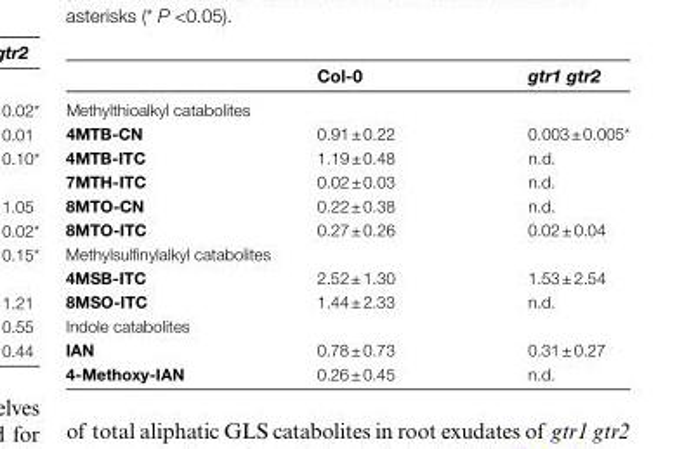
<table><thead><tr><td></td><td>Col-0</td><td>gtr1 gtr2</td></tr></thead><tbody><tr><td colspan="3">Methylthioalkyl catabolites</td></tr><tr><td>4MTB-CN</td><td>0.91 ± 0.22</td><td>0.003 ± 0.005*</td></tr><tr><td>4MTB-ITC</td><td>1.19 ± 0.48</td><td>n.d.</td></tr><tr><td>7MTH-ITC</td><td>0.02 ± 0.03</td><td>n.d.</td></tr><tr><td>8MTO-CN</td><td>0.22 ± 0.38</td><td>n.d.</td></tr><tr><td>8MTO-ITC</td><td>0.27 ± 0.26</td><td>0.02 ± 0.04</td></tr><tr><td colspan="3">Methylsulfinylalkyl catabolites</td></tr><tr><td>4MSB-ITC</td><td>2.52 ± 1.30</td><td>1.53 ± 2.54</td></tr><tr><td>8MSO-ITC</td><td>1.44 ± 2.33</td><td>n.d.</td></tr><tr><td colspan="3">Indole catabolites</td></tr><tr><td>IAN</td><td>0.78 ± 0.73</td><td>0.31 ± 0.27</td></tr><tr><td>4-Methoxy-IAN</td><td>0.26 ± 0.45</td><td>n.d.</td></tr></tbody></table>